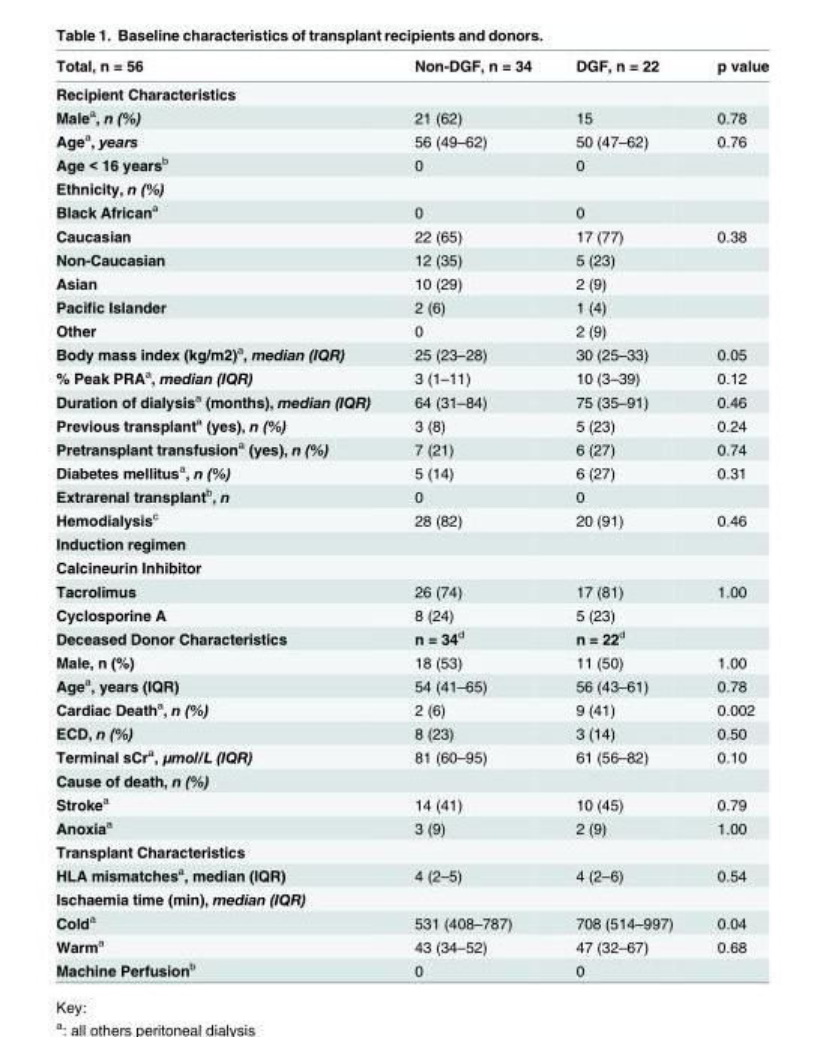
<table><thead><tr><td>Total, n = 56</td><td>Non-DGF, n = 34</td><td>DGF, n = 22</td><td>p value</td></tr></thead><tbody><tr><td colspan="4">Recipient Characteristics</td></tr><tr><td>Male<sup>a</sup>, n (%)</td><td>21 (62)</td><td>15</td><td>0.78</td></tr><tr><td>Age<sup>a</sup>, years</td><td>56 (49–62)</td><td>50 (47–62)</td><td>0.76</td></tr><tr><td>Age &lt; 16 years<sup>b</sup></td><td>0</td><td>0</td><td></td></tr><tr><td colspan="4">Ethnicity, n (%)</td></tr><tr><td>Black African<sup>a</sup></td><td>0</td><td>0</td><td></td></tr><tr><td>Caucasian</td><td>22 (65)</td><td>17 (77)</td><td>0.38</td></tr><tr><td>Non-Caucasian</td><td>12 (35)</td><td>5 (23)</td><td></td></tr><tr><td>Asian</td><td>10 (29)</td><td>2 (9)</td><td></td></tr><tr><td>Pacific Islander</td><td>2 (6)</td><td>1 (4)</td><td></td></tr><tr><td>Other</td><td>0</td><td>2 (9)</td><td></td></tr><tr><td>Body mass index (kg/m2)<sup>a</sup>, median (IQR)</td><td>25 (23–28)</td><td>30 (25–33)</td><td>0.05</td></tr><tr><td>% Peak PRA<sup>a</sup>, median (IQR)</td><td>3 (1–11)</td><td>10 (3–39)</td><td>0.12</td></tr><tr><td>Duration of dialysis<sup>a</sup> (months), median (IQR)</td><td>64 (31–84)</td><td>75 (35–91)</td><td>0.46</td></tr><tr><td>Previous transplant<sup>a</sup> (yes), n (%)</td><td>3 (8)</td><td>5 (23)</td><td>0.24</td></tr><tr><td>Pretransplant transfusion<sup>a</sup> (yes), n (%)</td><td>7 (21)</td><td>6 (27)</td><td>0.74</td></tr><tr><td>Diabetes mellitus<sup>a</sup>, n (%)</td><td>5 (14)</td><td>6 (27)</td><td>0.31</td></tr><tr><td>Extrarenal transplant<sup>b</sup>, n</td><td>0</td><td>0</td><td></td></tr><tr><td>Hemodialysis<sup>c</sup></td><td>28 (82)</td><td>20 (91)</td><td>0.46</td></tr><tr><td colspan="4">Induction regimen</td></tr><tr><td colspan="4">Calcineurin Inhibitor</td></tr><tr><td>Tacrolimus</td><td>26 (74)</td><td>17 (81)</td><td>1.00</td></tr><tr><td>Cyclosporine A</td><td>8 (24)</td><td>5 (23)</td><td></td></tr><tr><td>Deceased Donor Characteristics</td><td>n = 34<sup>d</sup></td><td>n = 22<sup>d</sup></td><td></td></tr><tr><td>Male, n (%)</td><td>18 (53)</td><td>11 (50)</td><td>1.00</td></tr><tr><td>Age<sup>a</sup>, years (IQR)</td><td>54 (41–65)</td><td>56 (43–61)</td><td>0.78</td></tr><tr><td>Cardiac Death<sup>a</sup>, n (%)</td><td>2 (6)</td><td>9 (41)</td><td>0.002</td></tr><tr><td>ECD, n (%)</td><td>8 (23)</td><td>3 (14)</td><td>0.50</td></tr><tr><td>Terminal sCr<sup>a</sup>, μmol/L (IQR)</td><td>81 (60–95)</td><td>61 (56–82)</td><td>0.10</td></tr><tr><td colspan="4">Cause of death, n (%)</td></tr><tr><td>Stroke<sup>a</sup></td><td>14 (41)</td><td>10 (45)</td><td>0.79</td></tr><tr><td>Anoxia<sup>a</sup></td><td>3 (9)</td><td>2 (9)</td><td>1.00</td></tr><tr><td colspan="4">Transplant Characteristics</td></tr><tr><td>HLA mismatches<sup>a</sup>, median (IQR)</td><td>4 (2–5)</td><td>4 (2–6)</td><td>0.54</td></tr><tr><td colspan="4">Ischaemia time (min), median (IQR)</td></tr><tr><td>Cold<sup>a</sup></td><td>531 (408–787)</td><td>708 (514–997)</td><td>0.04</td></tr><tr><td>Warm<sup>a</sup></td><td>43 (34–52)</td><td>47 (32–67)</td><td>0.68</td></tr><tr><td>Machine Perfusion<sup>b</sup></td><td>0</td><td>0</td><td></td></tr></tbody></table>